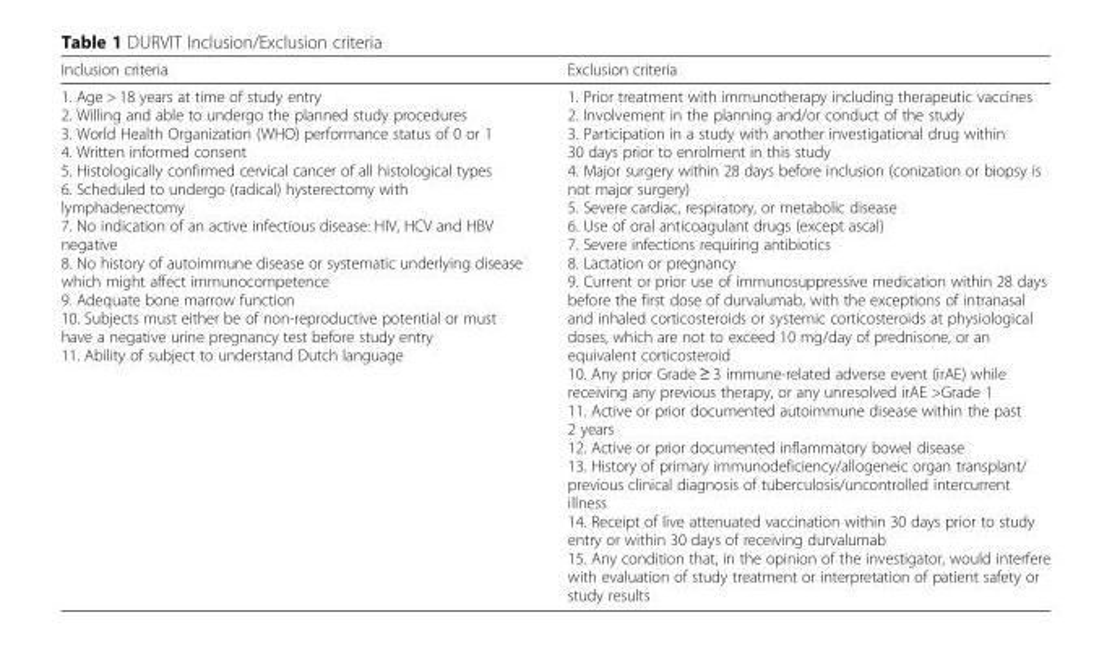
<table><thead><tr><td>Inclusion criteria</td><td>Exclusion criteria</td></tr></thead><tbody><tr><td>1. Age &gt; 18 years at time of study entry 2. Willing and able to undergo the planned study procedures 3. World Health Organization (WHO) performance status of 0 or 1 4. Written informed consent 5. Histologically confirmed cervical cancer of all histological types 6. Scheduled to undergo (radical) hysterectomy with lymphadenectomy 7. No indication of an active infectious disease: HIV, HCV and HBV negative 8. No history of autoimmune disease or systematic underlying disease which might affect immunocompetence 9. Adequate bone marrow function 10. Subjects must either be of non-reproductive potential or must have a negative urine pregnancy test before study entry 11. Ability of subject to understand Dutch language</td><td>1. Prior treatment with immunotherapy including therapeutic vaccines 2. Involvement in the planning and/or conduct of the study 3. Participation in a study with another investigational drug within 30 days prior to enrolment in this study 4. Major surgery within 28 days before inclusion (conization or biopsy is not major surgery) 5. Severe cardiac, respiratory, or metabolic disease 6. Use of oral anticoagulant drugs (except ascal) 7. Severe infections requiring antibiotics 8. Lactation or pregnancy 9. Current or prior use of immunosuppressive medication within 28 days before the first dose of durvalumab, with the exceptions of intranasal and inhaled corticosteroids or systemic corticosteroids at physiological doses, which are not to exceed 10 mg/day of prednisone, or an equivalent corticosteroid 10. Any prior Grade ≥ 3 immune-related adverse event (irAE) while receiving any previous therapy, or any unresolved irAE &gt;Grade 1 11. Active or prior documented autoimmune disease within the past 2 years 12. Active or prior documented inflammatory bowel disease 13. History of primary immunodeficiency/allogeneic organ transplant/ previous clinical diagnosis of tuberculosis/uncontrolled intercurrent illness 14. Receipt of live attenuated vaccination within 30 days prior to study entry or within 30 days of receiving durvalumab 15. Any condition that, in the opinion of the investigator, would interfere with evaluation of study treatment or interpretation of patient safety or study results</td></tr></tbody></table>